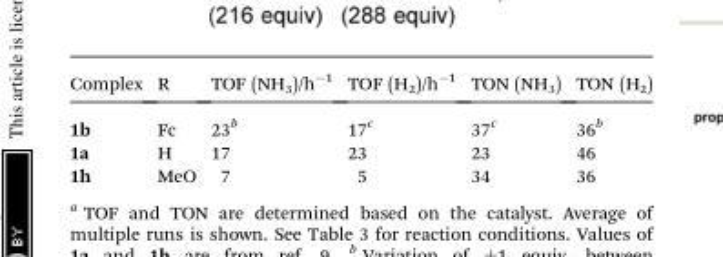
<table><thead><tr><td>Complex</td><td>R</td><td>TOF (NH<sub>3</sub>)/h<sup>–1</sup></td><td>TOF (H<sub>2</sub>)/h<sup>–1</sup></td><td>TON (NH<sub>3</sub>)</td><td>TON (H<sub>2</sub>)</td></tr></thead><tbody><tr><td>1b</td><td>Fc</td><td>23<sup>b</sup></td><td>17<sup>c</sup></td><td>37<sup>c</sup></td><td>36<sup>b</sup></td></tr><tr><td>1a</td><td>H</td><td>17</td><td>23</td><td>23</td><td>46</td></tr><tr><td>1h</td><td>MeO</td><td>7</td><td>5</td><td>34</td><td>36</td></tr></tbody></table>